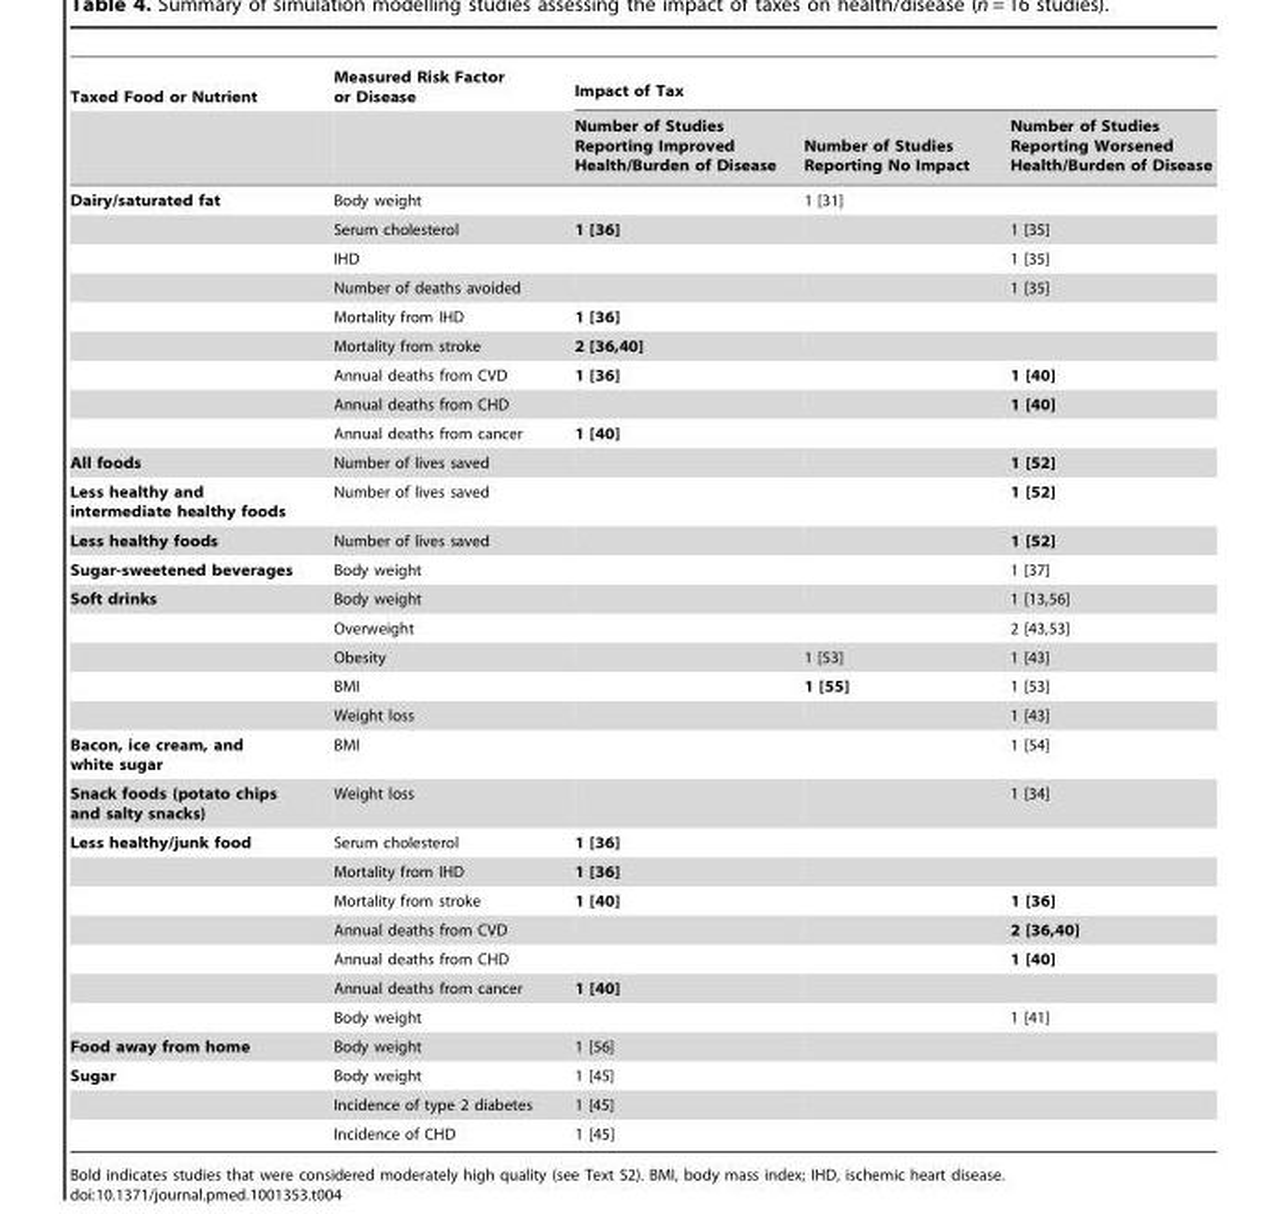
<table><thead><tr><td rowspan="2">Taxed Food or Nutrient</td><td rowspan="2">Measured Risk Factor or Disease</td><td colspan="3">Impact of Tax</td></tr><tr><td>Number of Studies Reporting Improved Health/Burden of Disease</td><td>Number of Studies Reporting No Impact</td><td>Number of Studies Reporting Worsened Health/Burden of Disease</td></tr></thead><tbody><tr><td rowspan="9">Dairy/saturated fat</td><td>Body weight</td><td></td><td>1 [31]</td><td></td></tr><tr><td>Serum cholesterol</td><td>1 [36]</td><td></td><td>1 [35]</td></tr><tr><td>IHD</td><td></td><td></td><td>1 [35]</td></tr><tr><td>Number of deaths avoided</td><td></td><td></td><td>1 [35]</td></tr><tr><td>Mortality from IHD</td><td>1 [36]</td><td></td><td></td></tr><tr><td>Mortality from stroke</td><td>2 [36,40]</td><td></td><td></td></tr><tr><td>Annual deaths from CVD</td><td>1 [36]</td><td></td><td>1 [40]</td></tr><tr><td>Annual deaths from CHD</td><td></td><td></td><td>1 [40]</td></tr><tr><td>Annual deaths from cancer</td><td>1 [40]</td><td></td><td></td></tr><tr><td>All foods</td><td>Number of lives saved</td><td></td><td></td><td>1 [52]</td></tr><tr><td>Less healthy and intermediate healthy foods</td><td>Number of lives saved</td><td></td><td></td><td>1 [52]</td></tr><tr><td>Less healthy foods</td><td>Number of lives saved</td><td></td><td></td><td>1 [52]</td></tr><tr><td>Sugar-sweetened beverages</td><td>Body weight</td><td></td><td></td><td>1 [37]</td></tr><tr><td rowspan="5">Soft drinks</td><td>Body weight</td><td></td><td></td><td>1 [13,56]</td></tr><tr><td>Overweight</td><td></td><td></td><td>2 [43,53]</td></tr><tr><td>Obesity</td><td></td><td>1 [53]</td><td>1 [43]</td></tr><tr><td>BMI</td><td></td><td>1 [55]</td><td>1 [53]</td></tr><tr><td>Weight loss</td><td></td><td></td><td>1 [43]</td></tr><tr><td>Bacon, ice cream, and white sugar</td><td>BMI</td><td></td><td></td><td>1 [54]</td></tr><tr><td>Snack foods (potato chips and salty snacks)</td><td>Weight loss</td><td></td><td></td><td>1 [34]</td></tr><tr><td rowspan="7">Less healthy/junk food</td><td>Serum cholesterol</td><td>1 [36]</td><td></td><td></td></tr><tr><td>Mortality from IHD</td><td>1 [36]</td><td></td><td></td></tr><tr><td>Mortality from stroke</td><td>1 [40]</td><td></td><td>1 [36]</td></tr><tr><td>Annual deaths from CVD</td><td></td><td></td><td>2 [36,40]</td></tr><tr><td>Annual deaths from CHD</td><td></td><td></td><td>1 [40]</td></tr><tr><td>Annual deaths from cancer</td><td>1 [40]</td><td></td><td></td></tr><tr><td>Body weight</td><td></td><td></td><td>1 [41]</td></tr><tr><td>Food away from home</td><td>Body weight</td><td>1 [56]</td><td></td><td></td></tr><tr><td rowspan="3">Sugar</td><td>Body weight</td><td>1 [45]</td><td></td><td></td></tr><tr><td>Incidence of type 2 diabetes</td><td>1 [45]</td><td></td><td></td></tr><tr><td>Incidence of CHD</td><td>1 [45]</td><td></td><td></td></tr></tbody></table>